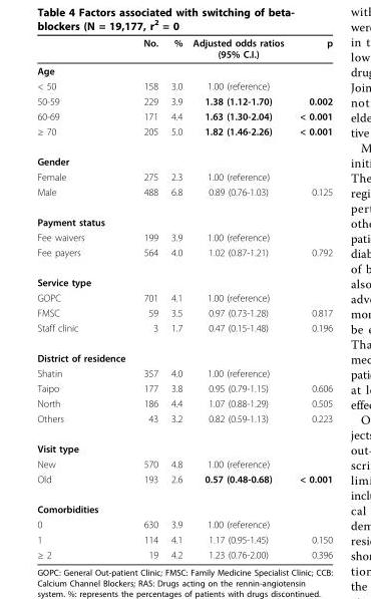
<table><thead><tr><td></td><td>No.</td><td>%</td><td>Adjusted odds ratios (95% C.I.)</td><td>p</td></tr></thead><tbody><tr><td colspan="5">Age</td></tr><tr><td>&lt; 50</td><td>158</td><td>3.0</td><td>1.00 (reference)</td><td></td></tr><tr><td>50-59</td><td>229</td><td>3.9</td><td>1.38 (1.12-1.70)</td><td>0.002</td></tr><tr><td>60-69</td><td>171</td><td>4.4</td><td>1.63 (1.30-2.04)</td><td>&lt; 0.001</td></tr><tr><td>≥ 70</td><td>205</td><td>5.0</td><td>1.82 (1.46-2.26)</td><td>&lt; 0.001</td></tr><tr><td colspan="5">Gender</td></tr><tr><td>Female</td><td>275</td><td>2.3</td><td>1.00 (reference)</td><td></td></tr><tr><td>Male</td><td>488</td><td>6.8</td><td>0.89 (0.76-1.03)</td><td>0.125</td></tr><tr><td colspan="5">Payment status</td></tr><tr><td>Fee waivers</td><td>199</td><td>3.9</td><td>1.00 (reference)</td><td></td></tr><tr><td>Fee payers</td><td>564</td><td>4.0</td><td>1.02 (0.87-1.21)</td><td>0.792</td></tr><tr><td colspan="5">Service type</td></tr><tr><td>GOPC</td><td>701</td><td>4.1</td><td>1.00 (reference)</td><td></td></tr><tr><td>FMSC</td><td>59</td><td>3.5</td><td>0.97 (0.73-1.28)</td><td>0.817</td></tr><tr><td>Staff clinic</td><td>3</td><td>1.7</td><td>0.47 (0.15-1.48)</td><td>0.196</td></tr><tr><td colspan="5">District of residence</td></tr><tr><td>Shatin</td><td>357</td><td>4.0</td><td>1.00 (reference)</td><td></td></tr><tr><td>Taipo</td><td>177</td><td>3.8</td><td>0.95 (0.79-1.15)</td><td>0.606</td></tr><tr><td>North</td><td>186</td><td>4.4</td><td>1.07 (0.88-1.29)</td><td>0.505</td></tr><tr><td>Others</td><td>43</td><td>3.2</td><td>0.82 (0.59-1.13)</td><td>0.223</td></tr><tr><td colspan="5">Visit type</td></tr><tr><td>New</td><td>570</td><td>4.8</td><td>1.00 (reference)</td><td></td></tr><tr><td>Old</td><td>193</td><td>2.6</td><td>0.57 (0.48-0.68)</td><td>&lt; 0.001</td></tr><tr><td colspan="5">Comorbidities</td></tr><tr><td>0</td><td>630</td><td>3.9</td><td>1.00 (reference)</td><td></td></tr><tr><td>1</td><td>114</td><td>4.1</td><td>1.17 (0.95-1.45)</td><td>0.150</td></tr><tr><td>≥ 2</td><td>19</td><td>4.2</td><td>1.23 (0.76-2.00)</td><td>0.396</td></tr></tbody></table>